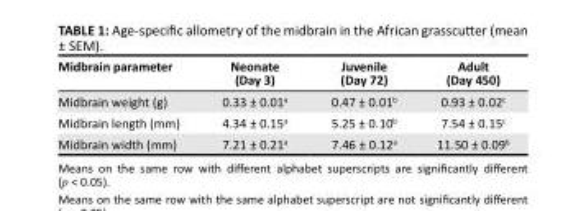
<table><thead><tr><td>Midbrain parameter</td><td>Neonate (Day 3)</td><td>Juvenile (Day 72)</td><td>Adult (Day 450)</td></tr></thead><tbody><tr><td>Midbrain weight (g)</td><td>0.33 ± 0.01<sup>a</sup></td><td>0.47 ± 0.01<sup>b</sup></td><td>0.93 ± 0.02<sup>c</sup></td></tr><tr><td>Midbrain length (mm)</td><td>4.34 ± 0.15<sup>a</sup></td><td>5.25 ± 0.10<sup>b</sup></td><td>7.54 ± 0.15<sup>c</sup></td></tr><tr><td>Midbrain width (mm)</td><td>7.21 ± 0.21<sup>a</sup></td><td>7.46 ± 0.12<sup>a</sup></td><td>11.50 ± 0.09<sup>b</sup></td></tr></tbody></table>